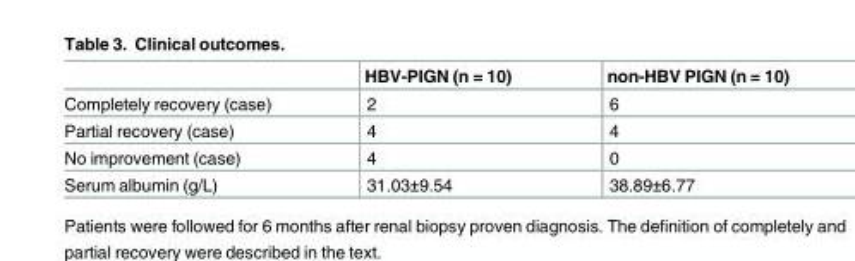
<table><thead><tr><td></td><td>HBV-PIGN (n = 10)</td><td>non-HBV PIGN (n = 10)</td></tr></thead><tbody><tr><td>Completely recovery (case)</td><td>2</td><td>6</td></tr><tr><td>Partial recovery (case)</td><td>4</td><td>4</td></tr><tr><td>No improvement (case)</td><td>4</td><td>0</td></tr><tr><td>Serum albumin (g/L)</td><td>31.03±9.54</td><td>38.89±6.77</td></tr></tbody></table>